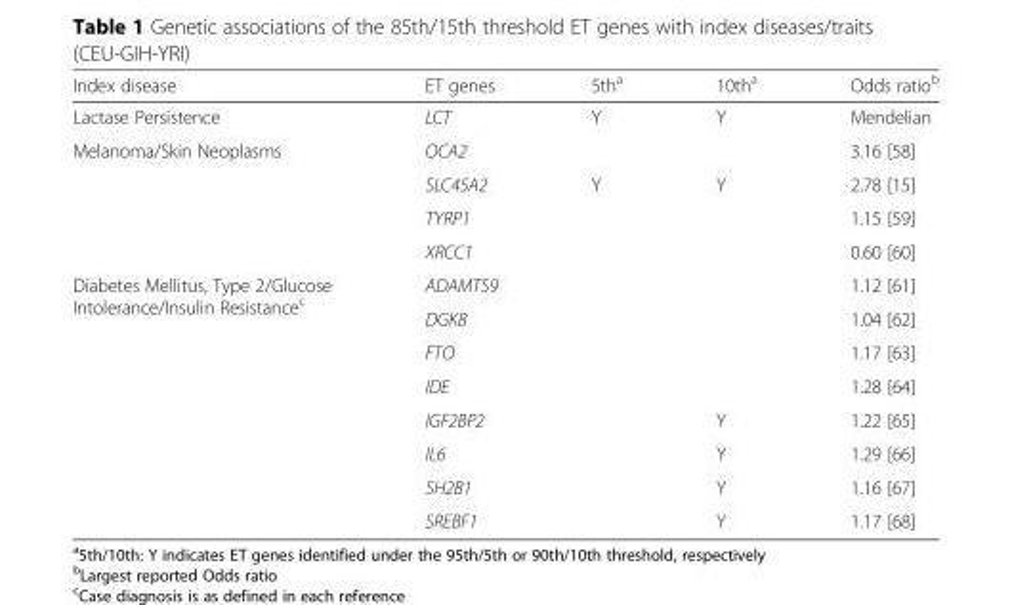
<table><thead><tr><td>Index disease</td><td>ET genes</td><td>5th<sup>a</sup></td><td>10th<sup>a</sup></td><td>Odds ratio<sup>b</sup></td></tr></thead><tbody><tr><td>Lactase Persistence</td><td>LCT</td><td>Y</td><td>Y</td><td>Mendelian</td></tr><tr><td rowspan="4">Melanoma/Skin Neoplasms</td><td>OCA2</td><td></td><td></td><td>3.16 [58]</td></tr><tr><td>SLC45A2</td><td>Y</td><td>Y</td><td>2.78 [15]</td></tr><tr><td>TYRP1</td><td></td><td></td><td>1.15 [59]</td></tr><tr><td>XRCC1</td><td></td><td></td><td>0.60 [60]</td></tr><tr><td rowspan="8">Diabetes Mellitus, Type 2/Glucose Intolerance/Insulin Resistance<sup>c</sup></td><td>ADAMTS9</td><td></td><td></td><td>1.12 [61]</td></tr><tr><td>DGKB</td><td></td><td></td><td>1.04 [62]</td></tr><tr><td>FTO</td><td></td><td></td><td>1.17 [63]</td></tr><tr><td>IDE</td><td></td><td></td><td>1.28 [64]</td></tr><tr><td>IGF2BP2</td><td></td><td>Y</td><td>1.22 [65]</td></tr><tr><td>IL6</td><td></td><td>Y</td><td>1.29 [66]</td></tr><tr><td>SH2B1</td><td></td><td>Y</td><td>1.16 [67]</td></tr><tr><td>SREBF1</td><td></td><td>Y</td><td>1.17 [68]</td></tr></tbody></table>